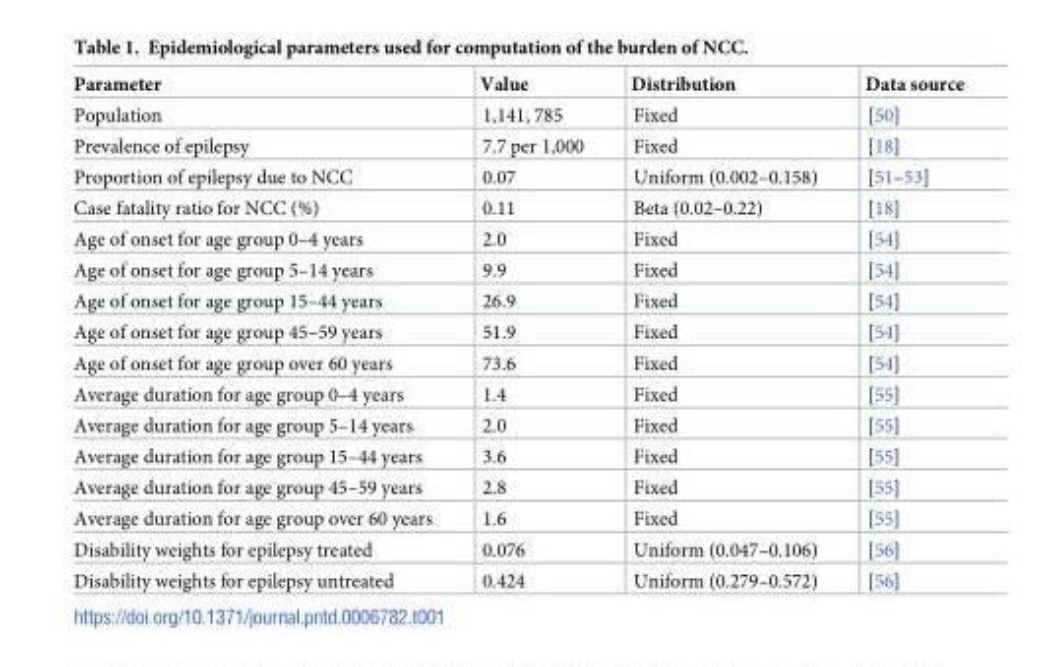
<table><thead><tr><td>Parameter</td><td>Value</td><td>Distribution</td><td>Data source</td></tr></thead><tbody><tr><td>Population</td><td>1,141, 785</td><td>Fixed</td><td>[50]</td></tr><tr><td>Prevalence of epilepsy</td><td>7.7 per 1,000</td><td>Fixed</td><td>[18]</td></tr><tr><td>Proportion of epilepsy due to NCC</td><td>0.07</td><td>Uniform (0.002–0.158)</td><td>[51–53]</td></tr><tr><td>Case fatality ratio for NCC (%)</td><td>0.11</td><td>Beta (0.02–0.22)</td><td>[18]</td></tr><tr><td>Age of onset for age group 0–4 years</td><td>2.0</td><td>Fixed</td><td>[54]</td></tr><tr><td>Age of onset for age group 5–14 years</td><td>9.9</td><td>Fixed</td><td>[54]</td></tr><tr><td>Age of onset for age group 15–44 years</td><td>26.9</td><td>Fixed</td><td>[54]</td></tr><tr><td>Age of onset for age group 45–59 years</td><td>51.9</td><td>Fixed</td><td>[54]</td></tr><tr><td>Age of onset for age group over 60 years</td><td>73.6</td><td>Fixed</td><td>[54]</td></tr><tr><td>Average duration for age group 0–4 years</td><td>1.4</td><td>Fixed</td><td>[55]</td></tr><tr><td>Average duration for age group 5–14 years</td><td>2.0</td><td>Fixed</td><td>[55]</td></tr><tr><td>Average duration for age group 15–44 years</td><td>3.6</td><td>Fixed</td><td>[55]</td></tr><tr><td>Average duration for age group 45–59 years</td><td>2.8</td><td>Fixed</td><td>[55]</td></tr><tr><td>Average duration for age group over 60 years</td><td>1.6</td><td>Fixed</td><td>[55]</td></tr><tr><td>Disability weights for epilepsy treated</td><td>0.076</td><td>Uniform (0.047–0.106)</td><td>[56]</td></tr><tr><td>Disability weights for epilepsy untreated</td><td>0.424</td><td>Uniform (0.279–0.572)</td><td>[56]</td></tr></tbody></table>